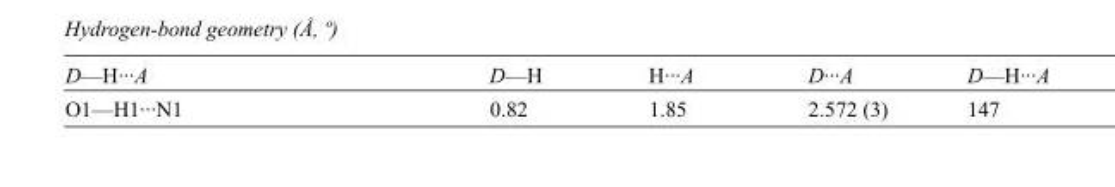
<table><tbody><tr><td>D—H···A</td><td>D—H</td><td>H···A</td><td>D···A</td><td>D—H···A</td></tr><tr><td>O1—H1···N1</td><td>0.82</td><td>1.85</td><td>2.572 (3)</td><td>147</td></tr></tbody></table>